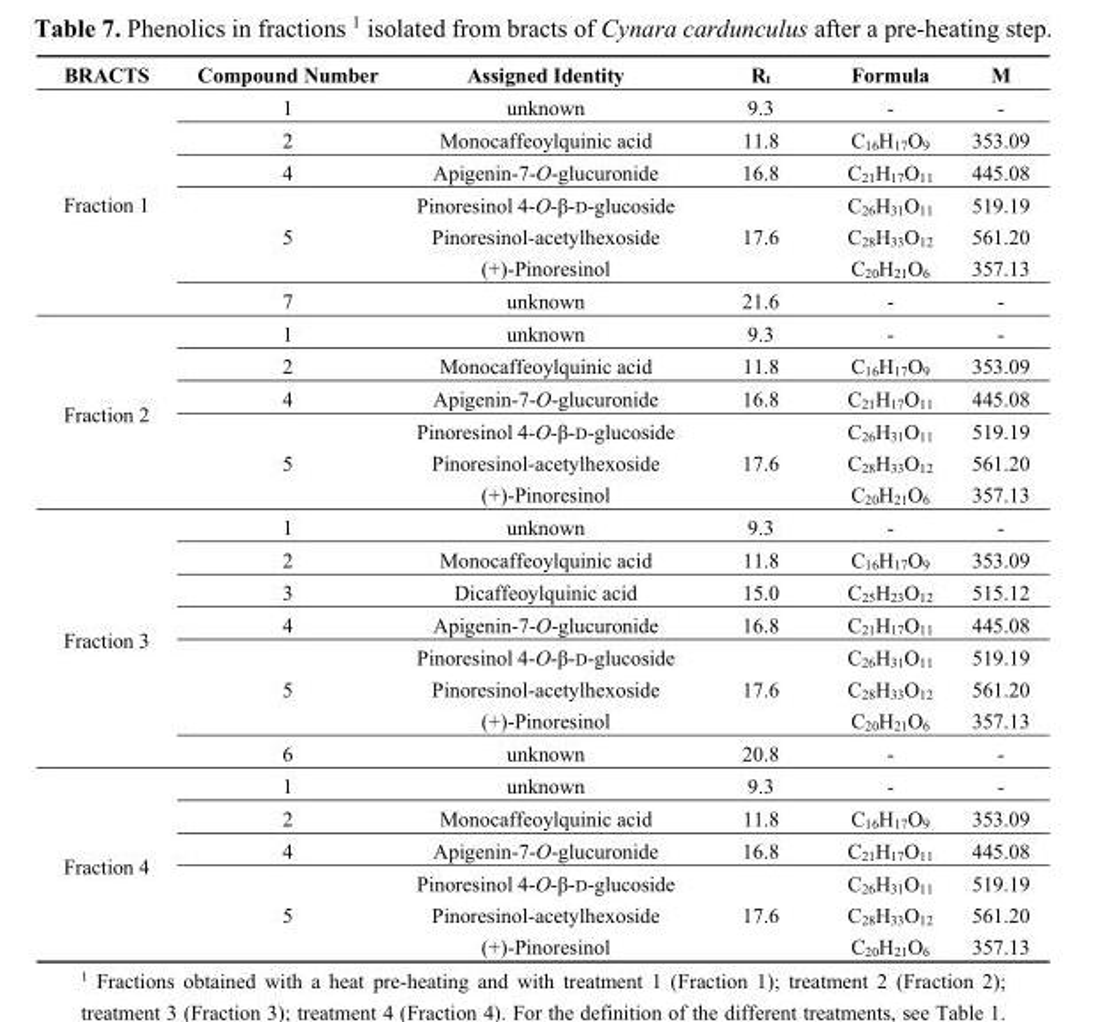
<table><thead><tr><td>BRACTS</td><td>Compound Number</td><td>Assigned Identity</td><td>R<sub>t</sub></td><td>Formula</td><td>M</td></tr></thead><tbody><tr><td rowspan="7">Fraction 1</td><td>1</td><td>unknown</td><td>9.3</td><td>-</td><td>-</td></tr><tr><td>2</td><td>Monocaffeoylquinic acid</td><td>11.8</td><td>C<sub>16</sub>H<sub>17</sub>O<sub>9</sub></td><td>353.09</td></tr><tr><td>4</td><td>Apigenin-7-O-glucuronide</td><td>16.8</td><td>C<sub>21</sub>H<sub>17</sub>O<sub>11</sub></td><td>445.08</td></tr><tr><td rowspan="3">5</td><td>Pinoresinol 4-O-β-D-glucoside</td><td rowspan="3">17.6</td><td>C<sub>26</sub>H<sub>31</sub>O<sub>11</sub></td><td>519.19</td></tr><tr><td>Pinoresinol-acetylhexoside</td><td>C<sub>28</sub>H<sub>33</sub>O<sub>12</sub></td><td>561.20</td></tr><tr><td>(+)-Pinoresinol</td><td>C<sub>20</sub>H<sub>21</sub>O<sub>6</sub></td><td>357.13</td></tr><tr><td>7</td><td>unknown</td><td>21.6</td><td>-</td><td>-</td></tr><tr><td rowspan="6">Fraction 2</td><td>1</td><td>unknown</td><td>9.3</td><td>-</td><td>-</td></tr><tr><td>2</td><td>Monocaffeoylquinic acid</td><td>11.8</td><td>C<sub>16</sub>H<sub>17</sub>O<sub>9</sub></td><td>353.09</td></tr><tr><td>4</td><td>Apigenin-7-O-glucuronide</td><td>16.8</td><td>C<sub>21</sub>H<sub>17</sub>O<sub>11</sub></td><td>445.08</td></tr><tr><td rowspan="3">5</td><td>Pinoresinol 4-O-β-D-glucoside</td><td rowspan="3">17.6</td><td>C<sub>26</sub>H<sub>31</sub>O<sub>11</sub></td><td>519.19</td></tr><tr><td>Pinoresinol-acetylhexoside</td><td>C<sub>28</sub>H<sub>33</sub>O<sub>12</sub></td><td>561.20</td></tr><tr><td>(+)-Pinoresinol</td><td>C<sub>20</sub>H<sub>21</sub>O<sub>6</sub></td><td>357.13</td></tr><tr><td rowspan="8">Fraction 3</td><td>1</td><td>unknown</td><td>9.3</td><td>-</td><td>-</td></tr><tr><td>2</td><td>Monocaffeoylquinic acid</td><td>11.8</td><td>C<sub>16</sub>H<sub>17</sub>O<sub>9</sub></td><td>353.09</td></tr><tr><td>3</td><td>Dicaffeoylquinic acid</td><td>15.0</td><td>C<sub>25</sub>H<sub>23</sub>O<sub>12</sub></td><td>515.12</td></tr><tr><td>4</td><td>Apigenin-7-O-glucuronide</td><td>16.8</td><td>C<sub>21</sub>H<sub>17</sub>O<sub>11</sub></td><td>445.08</td></tr><tr><td rowspan="3">5</td><td>Pinoresinol 4-O-β-D-glucoside</td><td rowspan="3">17.6</td><td>C<sub>26</sub>H<sub>31</sub>O<sub>11</sub></td><td>519.19</td></tr><tr><td>Pinoresinol-acetylhexoside</td><td>C<sub>28</sub>H<sub>33</sub>O<sub>12</sub></td><td>561.20</td></tr><tr><td>(+)-Pinoresinol</td><td>C<sub>20</sub>H<sub>21</sub>O<sub>6</sub></td><td>357.13</td></tr><tr><td>6</td><td>unknown</td><td>20.8</td><td>-</td><td>-</td></tr><tr><td rowspan="6">Fraction 4</td><td>1</td><td>unknown</td><td>9.3</td><td>-</td><td>-</td></tr><tr><td>2</td><td>Monocaffeoylquinic acid</td><td>11.8</td><td>C<sub>16</sub>H<sub>17</sub>O<sub>9</sub></td><td>353.09</td></tr><tr><td>4</td><td>Apigenin-7-O-glucuronide</td><td>16.8</td><td>C<sub>21</sub>H<sub>17</sub>O<sub>11</sub></td><td>445.08</td></tr><tr><td rowspan="3">5</td><td>Pinoresinol 4-O-β-D-glucoside</td><td rowspan="3">17.6</td><td>C<sub>26</sub>H<sub>31</sub>O<sub>11</sub></td><td>519.19</td></tr><tr><td>Pinoresinol-acetylhexoside</td><td>C<sub>28</sub>H<sub>33</sub>O<sub>12</sub></td><td>561.20</td></tr><tr><td>(+)-Pinoresinol</td><td>C<sub>20</sub>H<sub>21</sub>O<sub>6</sub></td><td>357.13</td></tr></tbody></table>